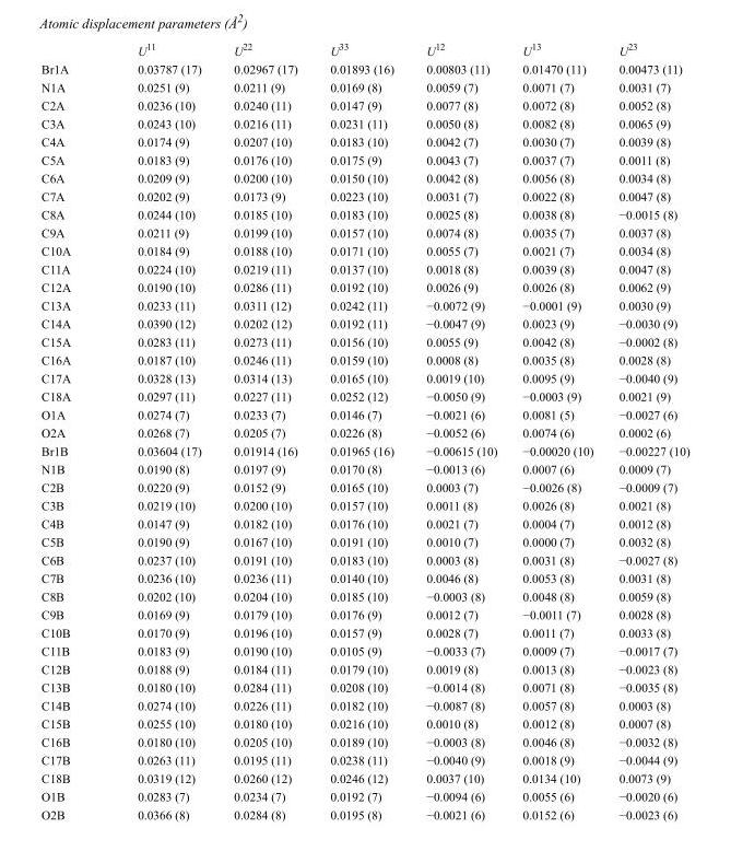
<table><thead><tr><td></td><td>U<sup>11</sup></td><td>U<sup>22</sup></td><td>U<sup>33</sup></td><td>U<sup>12</sup></td><td>U<sup>13</sup></td><td>U<sup>23</sup></td></tr></thead><tbody><tr><td>Br1A</td><td>0.03787 (17)</td><td>0.02967 (17)</td><td>0.01893 (16)</td><td>0.00803 (11)</td><td>0.01470 (11)</td><td>0.00473 (11)</td></tr><tr><td>N1A</td><td>0.0251 (9)</td><td>0.0211 (9)</td><td>0.0169 (8)</td><td>0.0059 (7)</td><td>0.0071 (7)</td><td>0.0031 (7)</td></tr><tr><td>C2A</td><td>0.0236 (10)</td><td>0.0240 (11)</td><td>0.0147 (9)</td><td>0.0077 (8)</td><td>0.0072 (8)</td><td>0.0052 (8)</td></tr><tr><td>C3A</td><td>0.0243 (10)</td><td>0.0216 (11)</td><td>0.0231 (11)</td><td>0.0050 (8)</td><td>0.0082 (8)</td><td>0.0065 (9)</td></tr><tr><td>C4A</td><td>0.0174 (9)</td><td>0.0207 (10)</td><td>0.0183 (10)</td><td>0.0042 (7)</td><td>0.0030 (7)</td><td>0.0039 (8)</td></tr><tr><td>C5A</td><td>0.0183 (9)</td><td>0.0176 (10)</td><td>0.0175 (9)</td><td>0.0043 (7)</td><td>0.0037 (7)</td><td>0.0011 (8)</td></tr><tr><td>C6A</td><td>0.0209 (9)</td><td>0.0200 (10)</td><td>0.0150 (10)</td><td>0.0042 (8)</td><td>0.0056 (8)</td><td>0.0034 (8)</td></tr><tr><td>C7A</td><td>0.0202 (9)</td><td>0.0173 (9)</td><td>0.0223 (10)</td><td>0.0031 (7)</td><td>0.0022 (8)</td><td>0.0047 (8)</td></tr><tr><td>C8A</td><td>0.0244 (10)</td><td>0.0185 (10)</td><td>0.0183 (10)</td><td>0.0025 (8)</td><td>0.0038 (8)</td><td>−0.0015 (8)</td></tr><tr><td>C9A</td><td>0.0211 (9)</td><td>0.0199 (10)</td><td>0.0157 (10)</td><td>0.0074 (8)</td><td>0.0035 (7)</td><td>0.0037 (8)</td></tr><tr><td>C10A</td><td>0.0184 (9)</td><td>0.0188 (10)</td><td>0.0171 (10)</td><td>0.0055 (7)</td><td>0.0021 (7)</td><td>0.0034 (8)</td></tr><tr><td>C11A</td><td>0.0224 (10)</td><td>0.0219 (11)</td><td>0.0137 (10)</td><td>0.0018 (8)</td><td>0.0039 (8)</td><td>0.0047 (8)</td></tr><tr><td>C12A</td><td>0.0190 (10)</td><td>0.0286 (11)</td><td>0.0192 (10)</td><td>0.0026 (9)</td><td>0.0026 (8)</td><td>0.0062 (9)</td></tr><tr><td>C13A</td><td>0.0233 (11)</td><td>0.0311 (12)</td><td>0.0242 (11)</td><td>−0.0072 (9)</td><td>−0.0001 (9)</td><td>0.0030 (9)</td></tr><tr><td>C14A</td><td>0.0390 (12)</td><td>0.0202 (12)</td><td>0.0192 (11)</td><td>−0.0047 (9)</td><td>0.0023 (9)</td><td>−0.0030 (9)</td></tr><tr><td>C15A</td><td>0.0283 (11)</td><td>0.0273 (11)</td><td>0.0156 (10)</td><td>0.0055 (9)</td><td>0.0042 (8)</td><td>−0.0002 (8)</td></tr><tr><td>C16A</td><td>0.0187 (10)</td><td>0.0246 (11)</td><td>0.0159 (10)</td><td>0.0008 (8)</td><td>0.0035 (8)</td><td>0.0028 (8)</td></tr><tr><td>C17A</td><td>0.0328 (13)</td><td>0.0314 (13)</td><td>0.0165 (10)</td><td>0.0019 (10)</td><td>0.0095 (9)</td><td>−0.0040 (9)</td></tr><tr><td>C18A</td><td>0.0297 (11)</td><td>0.0227 (11)</td><td>0.0252 (12)</td><td>−0.0050 (9)</td><td>−0.0003 (9)</td><td>0.0021 (9)</td></tr><tr><td>O1A</td><td>0.0274 (7)</td><td>0.0233 (7)</td><td>0.0146 (7)</td><td>−0.0021 (6)</td><td>0.0081 (5)</td><td>−0.0027 (6)</td></tr><tr><td>O2A</td><td>0.0268 (7)</td><td>0.0205 (7)</td><td>0.0226 (8)</td><td>−0.0052 (6)</td><td>0.0074 (6)</td><td>0.0002 (6)</td></tr><tr><td>Br1B</td><td>0.03604 (17)</td><td>0.01914 (16)</td><td>0.01965 (16)</td><td>−0.00615 (10)</td><td>−0.00020 (10)</td><td>−0.00227 (10)</td></tr><tr><td>N1B</td><td>0.0190 (8)</td><td>0.0197 (9)</td><td>0.0170 (8)</td><td>−0.0013 (6)</td><td>0.0007 (6)</td><td>0.0009 (7)</td></tr><tr><td>C2B</td><td>0.0220 (9)</td><td>0.0152 (9)</td><td>0.0165 (10)</td><td>0.0003 (7)</td><td>−0.0026 (8)</td><td>−0.0009 (7)</td></tr><tr><td>C3B</td><td>0.0219 (10)</td><td>0.0200 (10)</td><td>0.0157 (10)</td><td>0.0011 (8)</td><td>0.0026 (8)</td><td>0.0021 (8)</td></tr><tr><td>C4B</td><td>0.0147 (9)</td><td>0.0182 (10)</td><td>0.0176 (10)</td><td>0.0021 (7)</td><td>0.0004 (7)</td><td>0.0012 (8)</td></tr><tr><td>C5B</td><td>0.0190 (9)</td><td>0.0167 (10)</td><td>0.0191 (10)</td><td>0.0010 (7)</td><td>0.0000 (7)</td><td>0.0032 (8)</td></tr><tr><td>C6B</td><td>0.0237 (10)</td><td>0.0191 (10)</td><td>0.0183 (10)</td><td>0.0003 (8)</td><td>0.0031 (8)</td><td>−0.0027 (8)</td></tr><tr><td>C7B</td><td>0.0236 (10)</td><td>0.0236 (11)</td><td>0.0140 (10)</td><td>0.0046 (8)</td><td>0.0053 (8)</td><td>0.0031 (8)</td></tr><tr><td>C8B</td><td>0.0202 (10)</td><td>0.0204 (10)</td><td>0.0185 (10)</td><td>−0.0003 (8)</td><td>0.0048 (8)</td><td>0.0059 (8)</td></tr><tr><td>C9B</td><td>0.0169 (9)</td><td>0.0179 (10)</td><td>0.0176 (9)</td><td>0.0012 (7)</td><td>−0.0011 (7)</td><td>0.0028 (8)</td></tr><tr><td>C10B</td><td>0.0170 (9)</td><td>0.0196 (10)</td><td>0.0157 (9)</td><td>0.0028 (7)</td><td>0.0011 (7)</td><td>0.0033 (8)</td></tr><tr><td>C11B</td><td>0.0183 (9)</td><td>0.0190 (10)</td><td>0.0105 (9)</td><td>−0.0033 (7)</td><td>0.0009 (7)</td><td>−0.0017 (7)</td></tr><tr><td>C12B</td><td>0.0188 (9)</td><td>0.0184 (11)</td><td>0.0179 (10)</td><td>0.0019 (8)</td><td>0.0013 (8)</td><td>−0.0023 (8)</td></tr><tr><td>C13B</td><td>0.0180 (10)</td><td>0.0284 (11)</td><td>0.0208 (10)</td><td>−0.0014 (8)</td><td>0.0071 (8)</td><td>−0.0035 (8)</td></tr><tr><td>C14B</td><td>0.0274 (10)</td><td>0.0226 (11)</td><td>0.0182 (10)</td><td>−0.0087 (8)</td><td>0.0057 (8)</td><td>0.0003 (8)</td></tr><tr><td>C15B</td><td>0.0255 (10)</td><td>0.0180 (10)</td><td>0.0216 (10)</td><td>0.0010 (8)</td><td>0.0012 (8)</td><td>0.0007 (8)</td></tr><tr><td>C16B</td><td>0.0180 (10)</td><td>0.0205 (10)</td><td>0.0189 (10)</td><td>−0.0003 (8)</td><td>0.0046 (8)</td><td>−0.0032 (8)</td></tr><tr><td>C17B</td><td>0.0263 (11)</td><td>0.0195 (11)</td><td>0.0238 (11)</td><td>−0.0040 (9)</td><td>0.0018 (9)</td><td>−0.0044 (9)</td></tr><tr><td>C18B</td><td>0.0319 (12)</td><td>0.0260 (12)</td><td>0.0246 (12)</td><td>0.0037 (10)</td><td>0.0134 (10)</td><td>0.0073 (9)</td></tr><tr><td>O1B</td><td>0.0283 (7)</td><td>0.0234 (7)</td><td>0.0192 (7)</td><td>−0.0094 (6)</td><td>0.0055 (6)</td><td>−0.0020 (6)</td></tr><tr><td>O2B</td><td>0.0366 (8)</td><td>0.0284 (8)</td><td>0.0195 (8)</td><td>−0.0021 (6)</td><td>0.0152 (6)</td><td>−0.0023 (6)</td></tr></tbody></table>